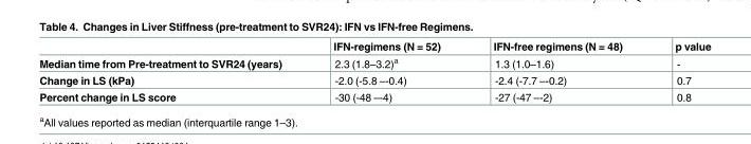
<table><thead><tr><td></td><td>IFN-regimens (N = 52)</td><td>IFN-free regimens (N = 48)</td><td>p value</td></tr></thead><tbody><tr><td>Median time from Pre-treatment to SVR24 (years)</td><td>2.3 (1.8–3.2)<sup>a</sup></td><td>1.3 (1.0–1.6)</td><td>-</td></tr><tr><td>Change in LS (kPa)</td><td>-2.0 (-5.8 –-0.4)</td><td>-2.4 (-7.7 –-0.2)</td><td>0.7</td></tr><tr><td>Percent change in LS score</td><td>-30 (-48 –-4)</td><td>-27 (-47 –-2)</td><td>0.8</td></tr></tbody></table>